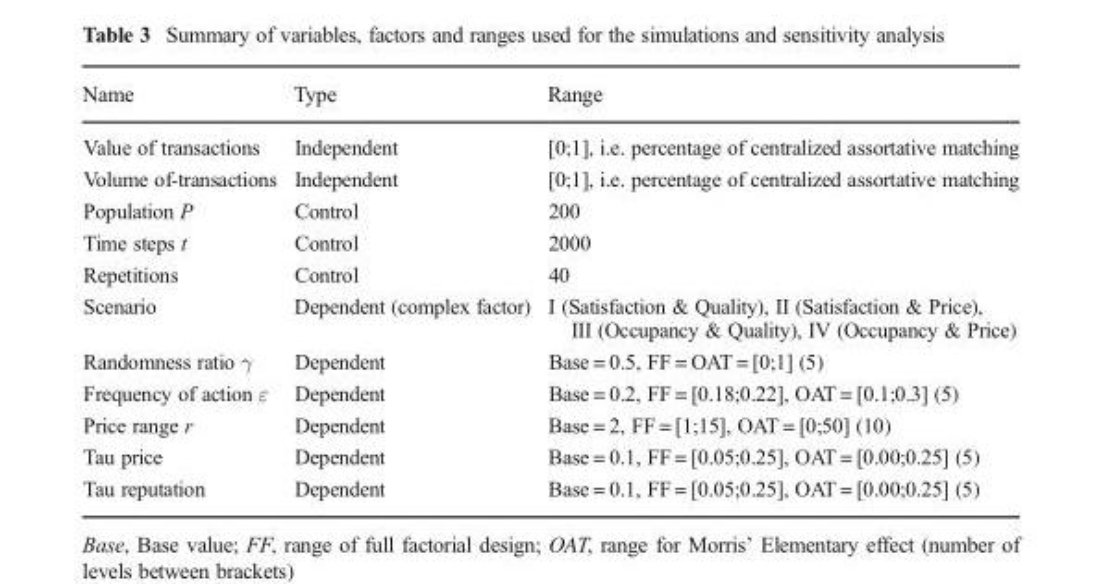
<table><thead><tr><td>Name</td><td>Type</td><td>Range</td></tr></thead><tbody><tr><td>Value of transactions</td><td>Independent</td><td>[0;1], i.e. percentage of centralized assortative matching</td></tr><tr><td>Volume of-transactions</td><td>Independent</td><td>[0;1], i.e. percentage of centralized assortative matching</td></tr><tr><td>Population P</td><td>Control</td><td>200</td></tr><tr><td>Time steps t</td><td>Control</td><td>2000</td></tr><tr><td>Repetitions</td><td>Control</td><td>40</td></tr><tr><td>Scenario</td><td>Dependent (complex factor)</td><td>I (Satisfaction &amp; Quality), II (Satisfaction &amp; Price), III (Occupancy &amp; Quality), IV (Occupancy &amp; Price)</td></tr><tr><td>Randomness ratio γ</td><td>Dependent</td><td>Base = 0.5, FF = OAT = [0;1] (5)</td></tr><tr><td>Frequency of action ε</td><td>Dependent</td><td>Base = 0.2, FF = [0.18;0.22], OAT = [0.1;0.3] (5)</td></tr><tr><td>Price range r</td><td>Dependent</td><td>Base = 2, FF = [1;15], OAT = [0;50] (10)</td></tr><tr><td>Tau price</td><td>Dependent</td><td>Base = 0.1, FF = [0.05;0.25], OAT = [0.00;0.25] (5)</td></tr><tr><td>Tau reputation</td><td>Dependent</td><td>Base = 0.1, FF = [0.05;0.25], OAT = [0.00;0.25] (5)</td></tr></tbody></table>